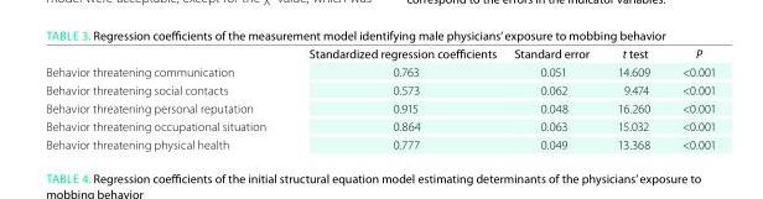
<table><thead><tr><td></td><td>Standardized regression coefficients</td><td>Standard error</td><td>t test</td><td>P</td></tr></thead><tbody><tr><td>Behavior threatening communication</td><td>0.763</td><td>0.051</td><td>14.609</td><td>&lt;0.001</td></tr><tr><td>Behavior threatening social contacts</td><td>0.573</td><td>0.062</td><td>9.474</td><td>&lt;0.001</td></tr><tr><td>Behavior threatening personal reputation</td><td>0.915</td><td>0.048</td><td>16.260</td><td>&lt;0.001</td></tr><tr><td>Behavior threatening occupational situation</td><td>0.864</td><td>0.063</td><td>15.032</td><td>&lt;0.001</td></tr><tr><td>Behavior threatening physical health</td><td>0.777</td><td>0.049</td><td>13.368</td><td>&lt;0.001</td></tr></tbody></table>